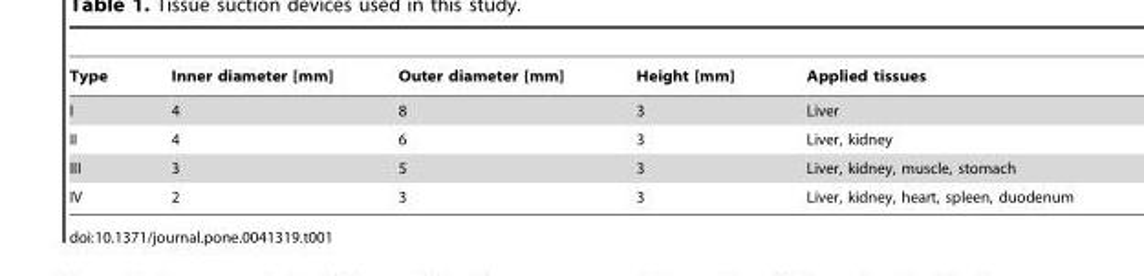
<table><thead><tr><td>Type</td><td>Inner diameter [mm]</td><td>Outer diameter [mm]</td><td>Height [mm]</td><td>Applied tissues</td></tr></thead><tbody><tr><td>I</td><td>4</td><td>8</td><td>3</td><td>Liver</td></tr><tr><td>II</td><td>4</td><td>6</td><td>3</td><td>Liver, kidney</td></tr><tr><td>III</td><td>3</td><td>5</td><td>3</td><td>Liver, kidney, muscle, stomach</td></tr><tr><td>IV</td><td>2</td><td>3</td><td>3</td><td>Liver, kidney, heart, spleen, duodenum</td></tr></tbody></table>